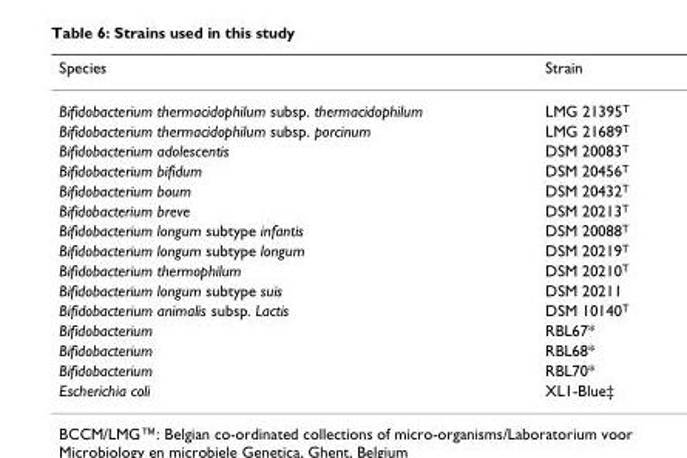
<table><thead><tr><td>Species</td><td>Strain</td></tr></thead><tbody><tr><td>Bifidobacterium thermacidophilum subsp. thermacidophilum</td><td>LMG 21395<sup>T</sup></td></tr><tr><td>Bifidobacterium thermacidophilum subsp. porcinum</td><td>LMG 21689<sup>T</sup></td></tr><tr><td>Bifidobacterium adolescentis</td><td>DSM 20083<sup>T</sup></td></tr><tr><td>Bifidobacterium bifidum</td><td>DSM 20456<sup>T</sup></td></tr><tr><td>Bifidobacterium boum</td><td>DSM 20432<sup>T</sup></td></tr><tr><td>Bifidobacterium breve</td><td>DSM 20213<sup>T</sup></td></tr><tr><td>Bifidobacterium longum subtype infantis</td><td>DSM 20088<sup>T</sup></td></tr><tr><td>Bifidobacterium longum subtype longum</td><td>DSM 20219<sup>T</sup></td></tr><tr><td>Bifidobacterium thermophilum</td><td>DSM 20210<sup>T</sup></td></tr><tr><td>Bifidobacterium longum subtype suis</td><td>DSM 20211</td></tr><tr><td>Bifidobacterium animalis subsp. Lactis</td><td>DSM 10140<sup>T</sup></td></tr><tr><td>Bifidobacterium</td><td>RBL67*</td></tr><tr><td>Bifidobacterium</td><td>RBL68*</td></tr><tr><td>Bifidobacterium</td><td>RBL70*</td></tr><tr><td>Escherichia coli</td><td>XL1-Blue‡</td></tr></tbody></table>